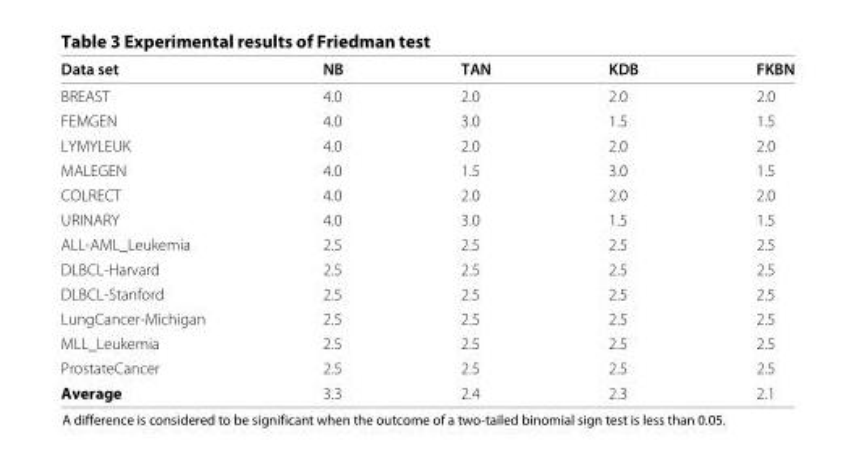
<table><thead><tr><td>Data set</td><td>NB</td><td>TAN</td><td>KDB</td><td>FKBN</td></tr></thead><tbody><tr><td>BREAST</td><td>4.0</td><td>2.0</td><td>2.0</td><td>2.0</td></tr><tr><td>FEMGEN</td><td>4.0</td><td>3.0</td><td>1.5</td><td>1.5</td></tr><tr><td>LYMYLEUK</td><td>4.0</td><td>2.0</td><td>2.0</td><td>2.0</td></tr><tr><td>MALEGEN</td><td>4.0</td><td>1.5</td><td>3.0</td><td>1.5</td></tr><tr><td>COLRECT</td><td>4.0</td><td>2.0</td><td>2.0</td><td>2.0</td></tr><tr><td>URINARY</td><td>4.0</td><td>3.0</td><td>1.5</td><td>1.5</td></tr><tr><td>ALL-AML_Leukemia</td><td>2.5</td><td>2.5</td><td>2.5</td><td>2.5</td></tr><tr><td>DLBCL-Harvard</td><td>2.5</td><td>2.5</td><td>2.5</td><td>2.5</td></tr><tr><td>DLBCL-Stanford</td><td>2.5</td><td>2.5</td><td>2.5</td><td>2.5</td></tr><tr><td>LungCancer-Michigan</td><td>2.5</td><td>2.5</td><td>2.5</td><td>2.5</td></tr><tr><td>MLL_Leukemia</td><td>2.5</td><td>2.5</td><td>2.5</td><td>2.5</td></tr><tr><td>ProstateCancer</td><td>2.5</td><td>2.5</td><td>2.5</td><td>2.5</td></tr><tr><td>Average</td><td>3.3</td><td>2.4</td><td>2.3</td><td>2.1</td></tr></tbody></table>